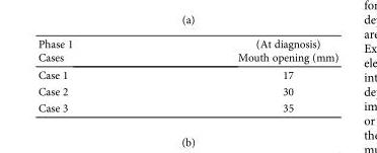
<table><thead><tr><td rowspan="2">Phase 1 Cases</td><td rowspan="2">(At diagnosis) Mouth opening (mm)</td></tr><tr></tr></thead><tbody><tr><td>Case 1</td><td>17</td></tr><tr><td>Case 2</td><td>30</td></tr><tr><td>Case 3</td><td>35</td></tr></tbody></table>